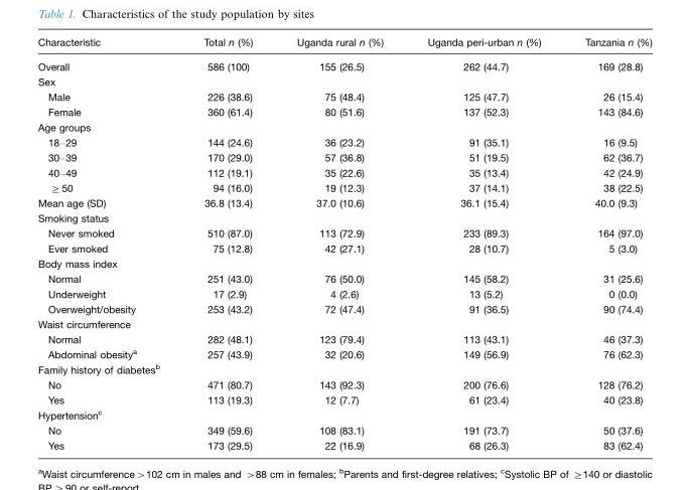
<table><thead><tr><td>Characteristic</td><td>Total n (%)</td><td>Uganda rural n (%)</td><td>Uganda peri-urban n (%)</td><td>Tanzania n (%)</td></tr></thead><tbody><tr><td>Overall</td><td>586 (100)</td><td>155 (26.5)</td><td>262 (44.7)</td><td>169 (28.8)</td></tr><tr><td colspan="5">Sex</td></tr><tr><td>Male</td><td>226 (38.6)</td><td>75 (48.4)</td><td>125 (47.7)</td><td>26 (15.4)</td></tr><tr><td>Female</td><td>360 (61.4)</td><td>80 (51.6)</td><td>137 (52.3)</td><td>143 (84.6)</td></tr><tr><td colspan="5">Age groups</td></tr><tr><td>18–29</td><td>144 (24.6)</td><td>36 (23.2)</td><td>91 (35.1)</td><td>16 (9.5)</td></tr><tr><td>30–39</td><td>170 (29.0)</td><td>57 (36.8)</td><td>51 (19.5)</td><td>62 (36.7)</td></tr><tr><td>40–49</td><td>112 (19.1)</td><td>35 (22.6)</td><td>35 (13.4)</td><td>42 (24.9)</td></tr><tr><td>≥50</td><td>94 (16.0)</td><td>19 (12.3)</td><td>37 (14.1)</td><td>38 (22.5)</td></tr><tr><td>Mean age (SD)</td><td>36.8 (13.4)</td><td>37.0 (10.6)</td><td>36.1 (15.4)</td><td>40.0 (9.3)</td></tr><tr><td colspan="5">Smoking status</td></tr><tr><td>Never smoked</td><td>510 (87.0)</td><td>113 (72.9)</td><td>233 (89.3)</td><td>164 (97.0)</td></tr><tr><td>Ever smoked</td><td>75 (12.8)</td><td>42 (27.1)</td><td>28 (10.7)</td><td>5 (3.0)</td></tr><tr><td colspan="5">Body mass index</td></tr><tr><td>Normal</td><td>251 (43.0)</td><td>76 (50.0)</td><td>145 (58.2)</td><td>31 (25.6)</td></tr><tr><td>Underweight</td><td>17 (2.9)</td><td>4 (2.6)</td><td>13 (5.2)</td><td>0 (0.0)</td></tr><tr><td>Overweight/obesity</td><td>253 (43.2)</td><td>72 (47.4)</td><td>91 (36.5)</td><td>90 (74.4)</td></tr><tr><td colspan="5">Waist circumference</td></tr><tr><td>Normal</td><td>282 (48.1)</td><td>123 (79.4)</td><td>113 (43.1)</td><td>46 (37.3)</td></tr><tr><td>Abdominal obesity<sup>a</sup></td><td>257 (43.9)</td><td>32 (20.6)</td><td>149 (56.9)</td><td>76 (62.3)</td></tr><tr><td colspan="5">Family history of diabetes<sup>b</sup></td></tr><tr><td>No</td><td>471 (80.7)</td><td>143 (92.3)</td><td>200 (76.6)</td><td>128 (76.2)</td></tr><tr><td>Yes</td><td>113 (19.3)</td><td>12 (7.7)</td><td>61 (23.4)</td><td>40 (23.8)</td></tr><tr><td colspan="5">Hypertension<sup>c</sup></td></tr><tr><td>No</td><td>349 (59.6)</td><td>108 (83.1)</td><td>191 (73.7)</td><td>50 (37.6)</td></tr><tr><td>Yes</td><td>173 (29.5)</td><td>22 (16.9)</td><td>68 (26.3)</td><td>83 (62.4)</td></tr></tbody></table>